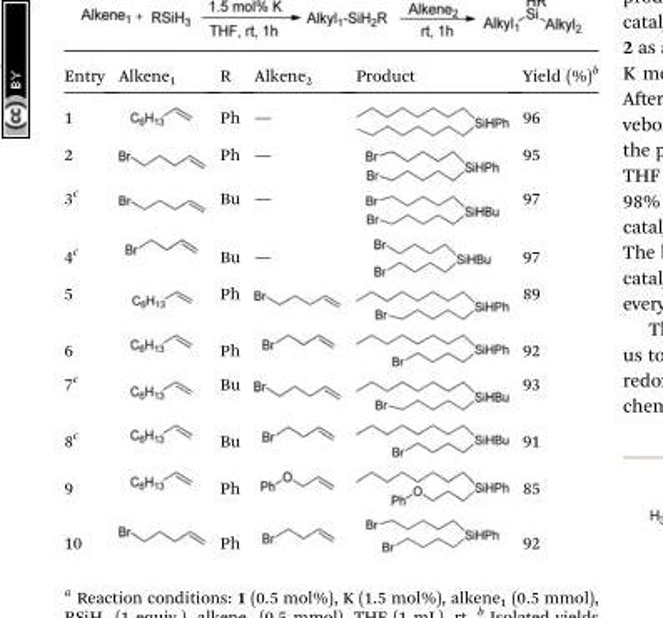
<table><thead><tr><td>Entry</td><td>Alkene<sub>1</sub></td><td>R</td><td>Alkene<sub>2</sub></td><td>Product</td><td>Yield (%)<sup>b</sup></td></tr></thead><tbody><tr><td>1</td><td></td><td>Ph</td><td>—</td><td></td><td>96</td></tr><tr><td>2</td><td></td><td>Ph</td><td>—</td><td></td><td>95</td></tr><tr><td>3<sup>c</sup></td><td></td><td>Bu</td><td>—</td><td></td><td>97</td></tr><tr><td>4<sup>c</sup></td><td></td><td>Bu</td><td>—</td><td></td><td>97</td></tr><tr><td>5</td><td></td><td>Ph</td><td></td><td></td><td>89</td></tr><tr><td>6</td><td></td><td>Ph</td><td></td><td></td><td>92</td></tr><tr><td>7<sup>c</sup></td><td></td><td>Bu</td><td></td><td></td><td>93</td></tr><tr><td>8<sup>c</sup></td><td></td><td>Bu</td><td></td><td></td><td>91</td></tr><tr><td>9</td><td></td><td>Ph</td><td></td><td></td><td>85</td></tr><tr><td>10</td><td></td><td>Ph</td><td></td><td></td><td>92</td></tr></tbody></table>